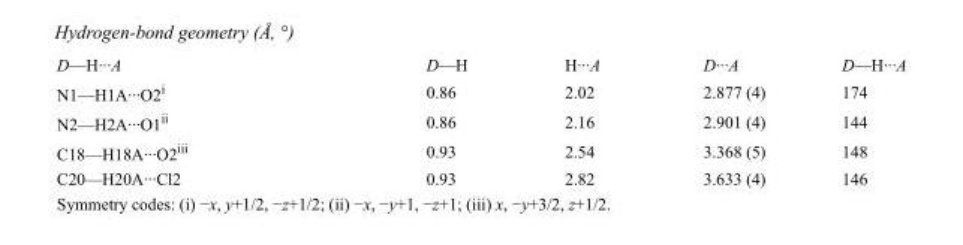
<table><tbody><tr><td>D—H···A</td><td>D—H</td><td>H···A</td><td>D···A</td><td>D—H···A</td></tr><tr><td>N1—H1A···O2<sup>i</sup></td><td>0.86</td><td>2.02</td><td>2.877 (4)</td><td>174</td></tr><tr><td>N2—H2A···O1<sup>ii</sup></td><td>0.86</td><td>2.16</td><td>2.901 (4)</td><td>144</td></tr><tr><td>C18—H18A···O2<sup>iii</sup></td><td>0.93</td><td>2.54</td><td>3.368 (5)</td><td>148</td></tr><tr><td>C20—H20A···Cl2</td><td>0.93</td><td>2.82</td><td>3.633 (4)</td><td>146</td></tr></tbody></table>